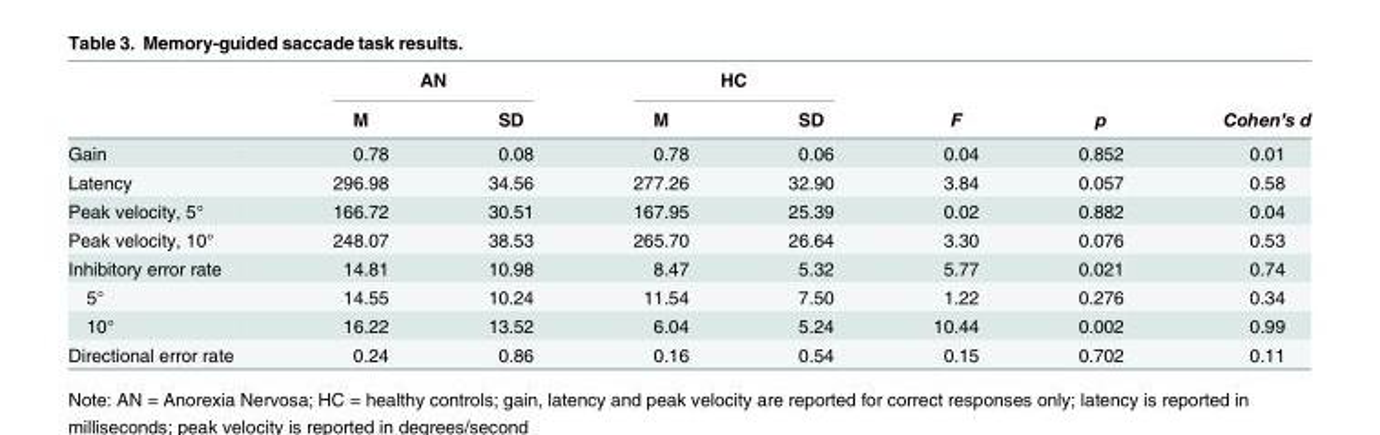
<table><thead><tr><td rowspan="2"></td><td colspan="2">AN</td><td colspan="2">HC</td><td rowspan="2">F</td><td rowspan="2">p</td><td rowspan="2">Cohen’s d</td></tr><tr><td>M</td><td>SD</td><td>M</td><td>SD</td></tr></thead><tbody><tr><td>Gain</td><td>0.78</td><td>0.08</td><td>0.78</td><td>0.06</td><td>0.04</td><td>0.852</td><td>0.01</td></tr><tr><td>Latency</td><td>296.98</td><td>34.56</td><td>277.26</td><td>32.90</td><td>3.84</td><td>0.057</td><td>0.58</td></tr><tr><td>Peak velocity, 5°</td><td>166.72</td><td>30.51</td><td>167.95</td><td>25.39</td><td>0.02</td><td>0.882</td><td>0.04</td></tr><tr><td>Peak velocity, 10°</td><td>248.07</td><td>38.53</td><td>265.70</td><td>26.64</td><td>3.30</td><td>0.076</td><td>0.53</td></tr><tr><td>Inhibitory error rate</td><td>14.81</td><td>10.98</td><td>8.47</td><td>5.32</td><td>5.77</td><td>0.021</td><td>0.74</td></tr><tr><td>5°</td><td>14.55</td><td>10.24</td><td>11.54</td><td>7.50</td><td>1.22</td><td>0.276</td><td>0.34</td></tr><tr><td>10°</td><td>16.22</td><td>13.52</td><td>6.04</td><td>5.24</td><td>10.44</td><td>0.002</td><td>0.99</td></tr><tr><td>Directional error rate</td><td>0.24</td><td>0.86</td><td>0.16</td><td>0.54</td><td>0.15</td><td>0.702</td><td>0.11</td></tr></tbody></table>